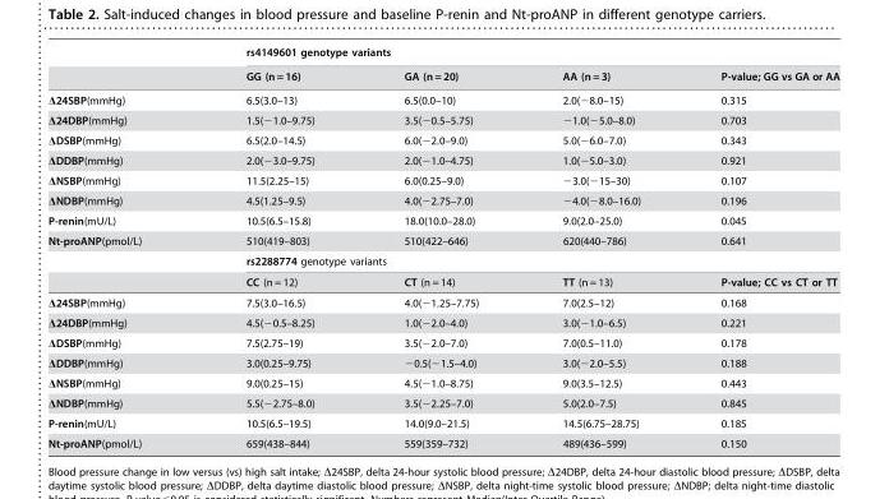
<table><thead><tr><td rowspan="2"></td><td colspan="4">rs4149601 genotype variants</td></tr><tr><td>GG (n = 16)</td><td>GA (n = 20)</td><td>AA (n = 3)</td><td>P-value; GG vs GA or AA</td></tr></thead><tbody><tr><td>Δ24SBP(mmHg)</td><td>6.5(3.0–13)</td><td>6.5(0.0–10)</td><td>2.0(−8.0–15)</td><td>0.315</td></tr><tr><td>Δ24DBP(mmHg)</td><td>1.5(−1.0–9.75)</td><td>3.5(−0.5–5.75)</td><td>−1.0(−5.0–8.0)</td><td>0.703</td></tr><tr><td>ΔDSBP(mmHg)</td><td>6.5(2.0–14.5)</td><td>6.0(−2.0–9.0)</td><td>5.0(−6.0–7.0)</td><td>0.343</td></tr><tr><td>ΔDDBP(mmHg)</td><td>2.0(−3.0–9.75)</td><td>2.0(−1.0–4.75)</td><td>1.0(−5.0–3.0)</td><td>0.921</td></tr><tr><td>ΔNSBP(mmHg)</td><td>11.5(2.25–15)</td><td>6.0(0.25–9.0)</td><td>−3.0(−15–30)</td><td>0.107</td></tr><tr><td>ΔNDBP(mmHg)</td><td>4.5(1.25–9.5)</td><td>4.0(−2.75–7.0)</td><td>−4.0(−8.0–16.0)</td><td>0.196</td></tr><tr><td>P-renin(mU/L)</td><td>10.5(6.5–15.8)</td><td>18.0(10.0–28.0)</td><td>9.0(2.0–25.0)</td><td>0.045</td></tr><tr><td rowspan="3">Nt-proANP(pmol/L)</td><td>510(419–803)</td><td>510(422–646)</td><td>620(440–786)</td><td>0.641</td></tr><tr><td colspan="4">rs2288774 genotype variants</td></tr><tr><td>CC (n = 12)</td><td>CT (n = 14)</td><td>TT (n = 13)</td><td>P-value; CC vs CT or TT</td></tr><tr><td>Δ24SBP(mmHg)</td><td>7.5(3.0–16.5)</td><td>4.0(−1.25–7.75)</td><td>7.0(2.5–12)</td><td>0.168</td></tr><tr><td>Δ24DBP(mmHg)</td><td>4.5(−0.5–8.25)</td><td>1.0(−2.0–4.0)</td><td>3.0(−1.0–6.5)</td><td>0.221</td></tr><tr><td>ΔDSBP(mmHg)</td><td>7.5(2.75–19)</td><td>3.5(−2.0–7.0)</td><td>7.0(0.5–11.0)</td><td>0.178</td></tr><tr><td>ΔDDBP(mmHg)</td><td>3.0(0.25–9.75)</td><td>−0.5(−1.5–4.0)</td><td>3.0(−2.0–5.5)</td><td>0.188</td></tr><tr><td>ΔNSBP(mmHg)</td><td>9.0(0.25–15)</td><td>4.5(−1.0–8.75)</td><td>9.0(3.5–12.5)</td><td>0.443</td></tr><tr><td>ΔNDBP(mmHg)</td><td>5.5(−2.75–8.0)</td><td>3.5(−2.25–7.0)</td><td>5.0(2.0–7.5)</td><td>0.845</td></tr><tr><td>P-renin(mU/L)</td><td>10.5(6.5–19.5)</td><td>14.0(9.0–21.5)</td><td>14.5(6.75–28.75)</td><td>0.185</td></tr><tr><td>Nt-proANP(pmol/L)</td><td>659(438–844)</td><td>559(359–732)</td><td>489(436–599)</td><td>0.150</td></tr></tbody></table>